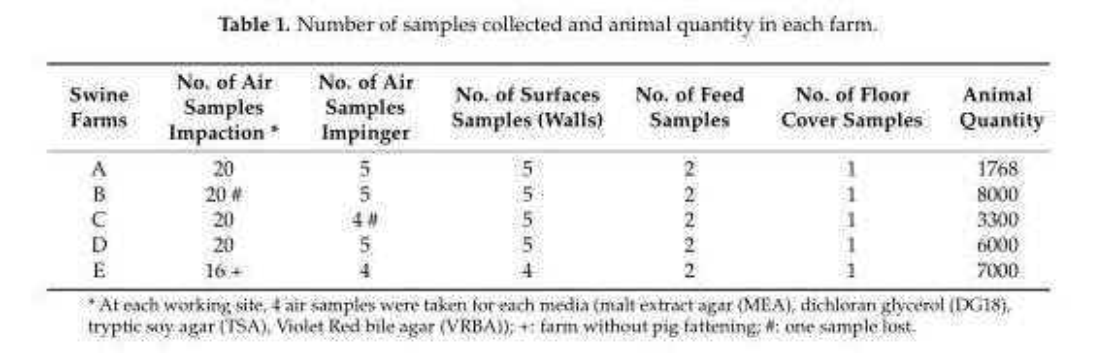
<table><thead><tr><td>Swine Farms</td><td>No. of Air Samples Impaction *</td><td>No. of Air Samples Impinger</td><td>No. of Surfaces Samples (Walls)</td><td>No. of Feed Samples</td><td>No. of Floor Cover Samples</td><td>Animal Quantity</td></tr></thead><tbody><tr><td>A</td><td>20</td><td>5</td><td>5</td><td>2</td><td>1</td><td>1768</td></tr><tr><td>B</td><td>20 #</td><td>5</td><td>5</td><td>2</td><td>1</td><td>8000</td></tr><tr><td>C</td><td>20</td><td>4 #</td><td>5</td><td>2</td><td>1</td><td>3300</td></tr><tr><td>D</td><td>20</td><td>5</td><td>5</td><td>2</td><td>1</td><td>6000</td></tr><tr><td>E</td><td>16 +</td><td>4</td><td>4</td><td>2</td><td>1</td><td>7000</td></tr></tbody></table>